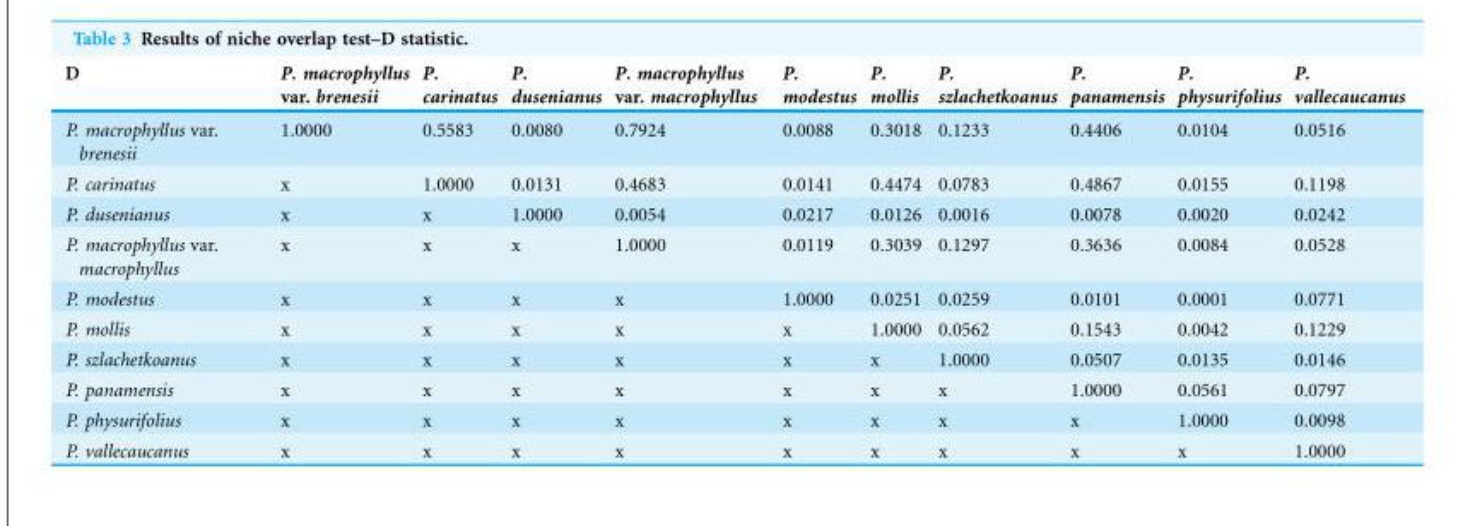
<table><thead><tr><td>D</td><td>P. macrophyllus var. brenesii</td><td>P. carinatus</td><td>P. dusenianus</td><td>P. macrophyllus var. macrophyllus</td><td>P. modestus</td><td>P. mollis</td><td>P. szlachetkoanus</td><td>P. panamensis</td><td>P. physurifolius</td><td>P. vallecaucanus</td></tr></thead><tbody><tr><td>P. macrophyllus var. brenesii</td><td>1.0000</td><td>0.5583</td><td>0.0080</td><td>0.7924</td><td>0.0088</td><td>0.3018</td><td>0.1233</td><td>0.4406</td><td>0.0104</td><td>0.0516</td></tr><tr><td>P. carinatus</td><td>x</td><td>1.0000</td><td>0.0131</td><td>0.4683</td><td>0.0141</td><td>0.4474</td><td>0.0783</td><td>0.4867</td><td>0.0155</td><td>0.1198</td></tr><tr><td>P. dusenianus</td><td>x</td><td>x</td><td>1.0000</td><td>0.0054</td><td>0.0217</td><td>0.0126</td><td>0.0016</td><td>0.0078</td><td>0.0020</td><td>0.0242</td></tr><tr><td>P. macrophyllus var. macrophyllus</td><td>x</td><td>x</td><td>x</td><td>1.0000</td><td>0.0119</td><td>0.3039</td><td>0.1297</td><td>0.3636</td><td>0.0084</td><td>0.0528</td></tr><tr><td>P. modestus</td><td>x</td><td>x</td><td>x</td><td>x</td><td>1.0000</td><td>0.0251</td><td>0.0259</td><td>0.0101</td><td>0.0001</td><td>0.0771</td></tr><tr><td>P. mollis</td><td>x</td><td>x</td><td>x</td><td>x</td><td>x</td><td>1.0000</td><td>0.0562</td><td>0.1543</td><td>0.0042</td><td>0.1229</td></tr><tr><td>P. szlachetkoanus</td><td>x</td><td>x</td><td>x</td><td>x</td><td>x</td><td>x</td><td>1.0000</td><td>0.0507</td><td>0.0135</td><td>0.0146</td></tr><tr><td>P. panamensis</td><td>x</td><td>x</td><td>x</td><td>x</td><td>x</td><td>x</td><td>x</td><td>1.0000</td><td>0.0561</td><td>0.0797</td></tr><tr><td>P. physurifolius</td><td>x</td><td>x</td><td>x</td><td>x</td><td>x</td><td>x</td><td>x</td><td>x</td><td>1.0000</td><td>0.0098</td></tr><tr><td>P. vallecaucanus</td><td>x</td><td>x</td><td>x</td><td>x</td><td>x</td><td>x</td><td>x</td><td>x</td><td>x</td><td>1.0000</td></tr></tbody></table>